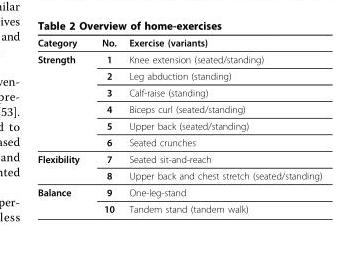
<table><thead><tr><td>Category</td><td>No.</td><td>Exercise (variants)</td></tr></thead><tbody><tr><td rowspan="6">Strength</td><td>1</td><td>Knee extension (seated/standing)</td></tr><tr><td>2</td><td>Leg abduction (standing)</td></tr><tr><td>3</td><td>Calf-raise (standing)</td></tr><tr><td>4</td><td>Biceps curl (seated/standing)</td></tr><tr><td>5</td><td>Upper back (seated/standing)</td></tr><tr><td>6</td><td>Seated crunches</td></tr><tr><td rowspan="2">Flexibility</td><td>7</td><td>Seated sit-and-reach</td></tr><tr><td>8</td><td>Upper back and chest stretch (seated/standing)</td></tr><tr><td rowspan="2">Balance</td><td>9</td><td>One-leg-stand</td></tr><tr><td>10</td><td>Tandem stand (tandem walk)</td></tr></tbody></table>